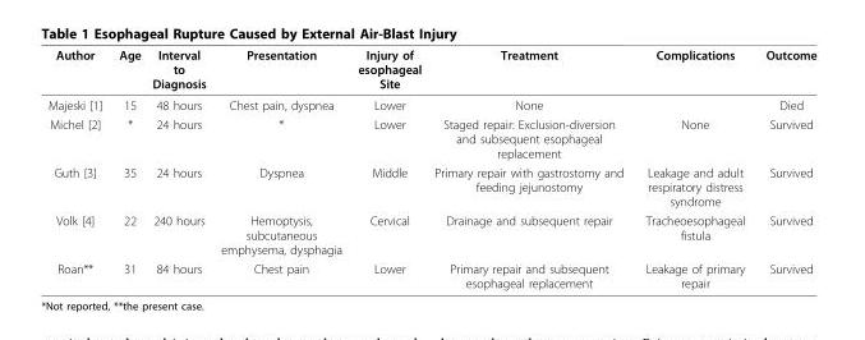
<table><thead><tr><td>Author</td><td>Age</td><td>Interval to Diagnosis</td><td>Presentation</td><td>Injury of esophageal Site</td><td>Treatment</td><td>Complications</td><td>Outcome</td></tr></thead><tbody><tr><td>Majeski [1]</td><td>15</td><td>48 hours</td><td>Chest pain, dyspnea</td><td>Lower</td><td>None</td><td></td><td>Died</td></tr><tr><td>Michel [2]</td><td>*</td><td>24 hours</td><td>*</td><td>Lower</td><td>Staged repair: Exclusion-diversion and subsequent esophageal replacement</td><td>None</td><td>Survived</td></tr><tr><td>Guth [3]</td><td>35</td><td>24 hours</td><td>Dyspnea</td><td>Middle</td><td>Primary repair with gastrostomy and feeding jejunostomy</td><td>Leakage and adult respiratory distress syndrome</td><td>Survived</td></tr><tr><td>Volk [4]</td><td>22</td><td>240 hours</td><td>Hemoptysis, subcutaneous emphysema, dysphagia</td><td>Cervical</td><td>Drainage and subsequent repair</td><td>Tracheoesophageal fistula</td><td>Survived</td></tr><tr><td>Roan**</td><td>31</td><td>84 hours</td><td>Chest pain</td><td>Lower</td><td>Primary repair and subsequent esophageal replacement</td><td>Leakage of primary repair</td><td>Survived</td></tr></tbody></table>